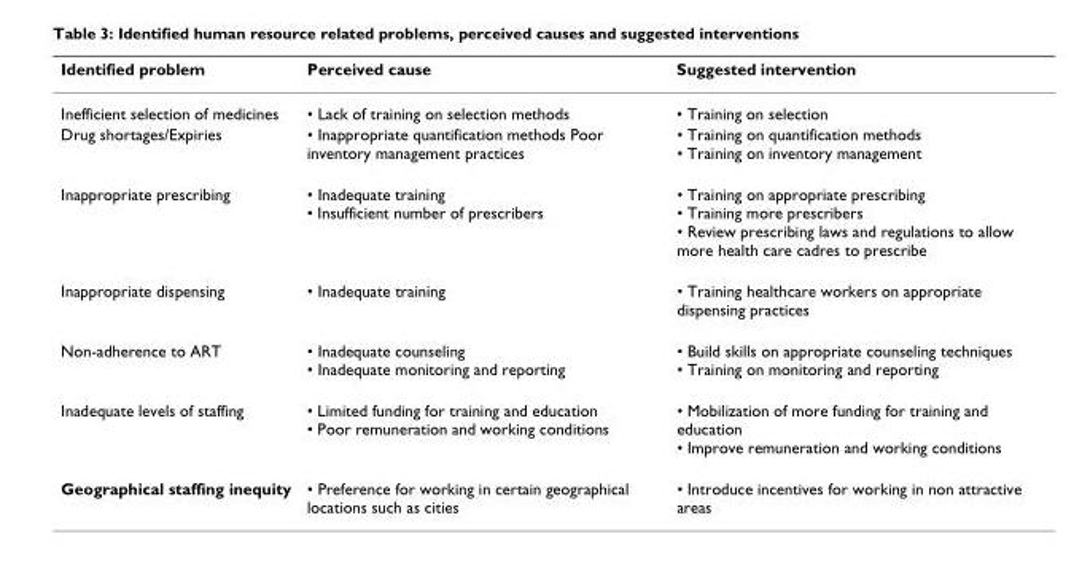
<table><thead><tr><td>Identified problem</td><td>Perceived cause</td><td>Suggested intervention</td></tr></thead><tbody><tr><td>Inefficient selection of medicines</td><td>• Lack of training on selection methods</td><td>• Training on selection</td></tr><tr><td>Drug shortages/Expiries</td><td>• Inappropriate quantification methods Poor inventory management practices</td><td>• Training on quantification methods • Training on inventory management</td></tr><tr><td>Inappropriate prescribing</td><td>• Inadequate training • Insufficient number of prescribers</td><td>• Training on appropriate prescribing • Training more prescribers • Review prescribing laws and regulations to allow more health care cadres to prescribe</td></tr><tr><td>Inappropriate dispensing</td><td>• Inadequate training</td><td>• Training healthcare workers on appropriate dispensing practices</td></tr><tr><td>Non-adherence to ART</td><td>• Inadequate counseling • Inadequate monitoring and reporting</td><td>• Build skills on appropriate counseling techniques • Training on monitoring and reporting</td></tr><tr><td>Inadequate levels of staffing</td><td>• Limited funding for training and education • Poor remuneration and working conditions</td><td>• Mobilization of more funding for training and education • Improve remuneration and working conditions</td></tr><tr><td>Geographical staffing inequity</td><td>• Preference for working in certain geographical locations such as cities</td><td>• Introduce incentives for working in non attractive areas</td></tr></tbody></table>